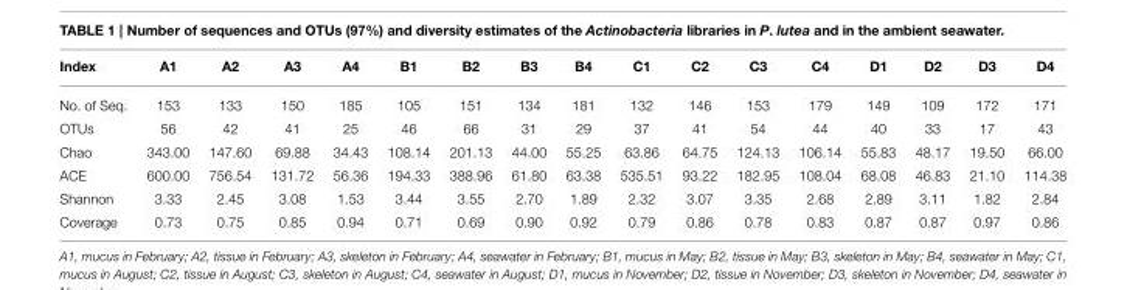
<table><thead><tr><td>Index</td><td>A1</td><td>A2</td><td>A3</td><td>A4</td><td>B1</td><td>B2</td><td>B3</td><td>B4</td><td>C1</td><td>C2</td><td>C3</td><td>C4</td><td>D1</td><td>D2</td><td>D3</td><td>D4</td></tr></thead><tbody><tr><td>No. of Seq.</td><td>153</td><td>133</td><td>150</td><td>185</td><td>105</td><td>151</td><td>134</td><td>181</td><td>132</td><td>146</td><td>153</td><td>179</td><td>149</td><td>109</td><td>172</td><td>171</td></tr><tr><td>OTUs</td><td>56</td><td>42</td><td>41</td><td>25</td><td>46</td><td>66</td><td>31</td><td>29</td><td>37</td><td>41</td><td>54</td><td>44</td><td>40</td><td>33</td><td>17</td><td>43</td></tr><tr><td>Chao</td><td>343.00</td><td>147.60</td><td>69.88</td><td>34.43</td><td>108.14</td><td>201.13</td><td>44.00</td><td>55.25</td><td>63.86</td><td>64.75</td><td>124.13</td><td>106.14</td><td>55.83</td><td>48.17</td><td>19.50</td><td>66.00</td></tr><tr><td>ACE</td><td>600.00</td><td>756.54</td><td>131.72</td><td>56.36</td><td>194.33</td><td>388.96</td><td>61.80</td><td>63.38</td><td>535.51</td><td>93.22</td><td>182.95</td><td>108.04</td><td>68.08</td><td>46.83</td><td>21.10</td><td>114.38</td></tr><tr><td>Shannon</td><td>3.33</td><td>2.45</td><td>3.08</td><td>1.53</td><td>3.44</td><td>3.55</td><td>2.70</td><td>1.89</td><td>2.32</td><td>3.07</td><td>3.35</td><td>2.68</td><td>2.89</td><td>3.11</td><td>1.82</td><td>2.84</td></tr><tr><td>Coverage</td><td>0.73</td><td>0.75</td><td>0.85</td><td>0.94</td><td>0.71</td><td>0.69</td><td>0.90</td><td>0.92</td><td>0.79</td><td>0.86</td><td>0.78</td><td>0.83</td><td>0.87</td><td>0.87</td><td>0.97</td><td>0.86</td></tr></tbody></table>